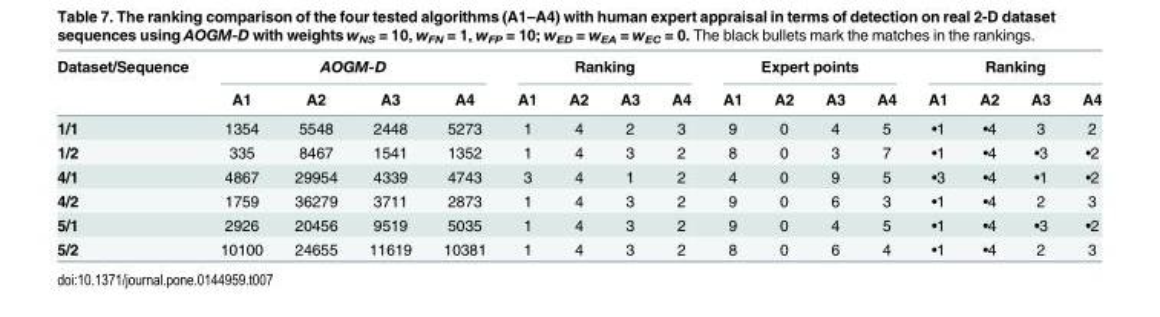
<table><thead><tr><td rowspan="2">Dataset/Sequence</td><td colspan="4">AOGM-D</td><td colspan="4">Ranking</td><td colspan="4">Expert points</td><td colspan="4">Ranking</td></tr><tr><td>A1</td><td>A2</td><td>A3</td><td>A4</td><td>A1</td><td>A2</td><td>A3</td><td>A4</td><td>A1</td><td>A2</td><td>A3</td><td>A4</td><td>A1</td><td>A2</td><td>A3</td><td>A4</td></tr></thead><tbody><tr><td>1/1</td><td>1354</td><td>5548</td><td>2448</td><td>5273</td><td>1</td><td>4</td><td>2</td><td>3</td><td>9</td><td>0</td><td>4</td><td>5</td><td>•1</td><td>•4</td><td>3</td><td>2</td></tr><tr><td>1/2</td><td>335</td><td>8467</td><td>1541</td><td>1352</td><td>1</td><td>4</td><td>3</td><td>2</td><td>8</td><td>0</td><td>3</td><td>7</td><td>•1</td><td>•4</td><td>•3</td><td>•2</td></tr><tr><td>4/1</td><td>4867</td><td>29954</td><td>4339</td><td>4743</td><td>3</td><td>4</td><td>1</td><td>2</td><td>4</td><td>0</td><td>9</td><td>5</td><td>•3</td><td>•4</td><td>•1</td><td>•2</td></tr><tr><td>4/2</td><td>1759</td><td>36279</td><td>3711</td><td>2873</td><td>1</td><td>4</td><td>3</td><td>2</td><td>9</td><td>0</td><td>6</td><td>3</td><td>•1</td><td>•4</td><td>2</td><td>3</td></tr><tr><td>5/1</td><td>2926</td><td>20456</td><td>9519</td><td>5035</td><td>1</td><td>4</td><td>3</td><td>2</td><td>9</td><td>0</td><td>4</td><td>5</td><td>•1</td><td>•4</td><td>•3</td><td>•2</td></tr><tr><td>5/2</td><td>10100</td><td>24655</td><td>11619</td><td>10381</td><td>1</td><td>4</td><td>3</td><td>2</td><td>8</td><td>0</td><td>6</td><td>4</td><td>•1</td><td>•4</td><td>2</td><td>3</td></tr></tbody></table>